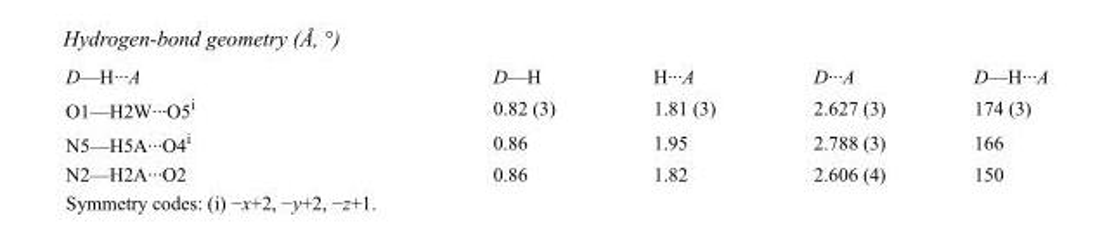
<table><tbody><tr><td>D—H···A</td><td>D—H</td><td>H···A</td><td>D···A</td><td>D—H···A</td></tr><tr><td>O1—H2W···O5<sup>i</sup></td><td>0.82 (3)</td><td>1.81 (3)</td><td>2.627 (3)</td><td>174 (3)</td></tr><tr><td>N5—H5A···O4<sup>i</sup></td><td>0.86</td><td>1.95</td><td>2.788 (3)</td><td>166</td></tr><tr><td>N2—H2A···O2</td><td>0.86</td><td>1.82</td><td>2.606 (4)</td><td>150</td></tr></tbody></table>